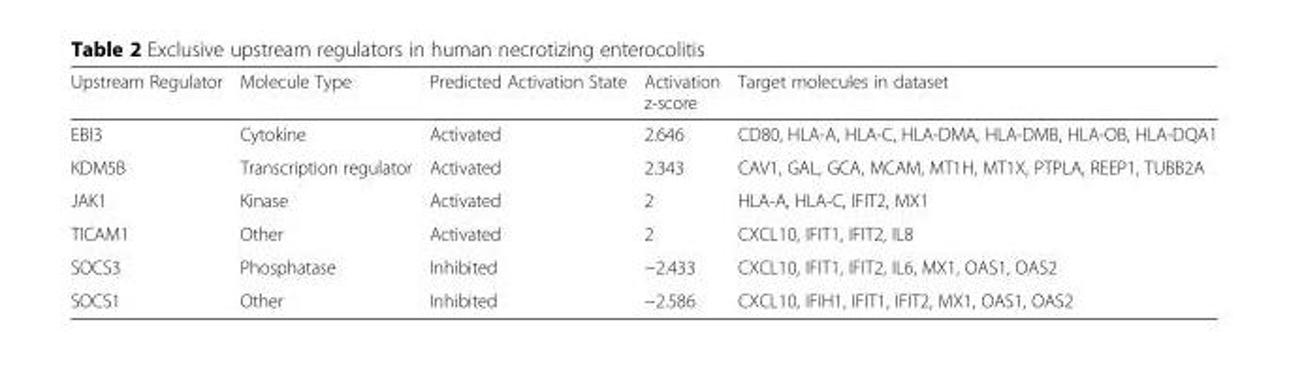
<table><thead><tr><td>Upstream Regulator</td><td>Molecule Type</td><td>Predicted Activation State</td><td>Activation z-score</td><td>Target molecules in dataset</td></tr></thead><tbody><tr><td>EBI3</td><td>Cytokine</td><td>Activated</td><td>2.646</td><td>CD80, HLA-A, HLA-C, HLA-DMA, HLA-DMB, HLA-OB, HLA-DQA1</td></tr><tr><td>KDM5B</td><td>Transcription regulator</td><td>Activated</td><td>2.343</td><td>CAV1, GAL, GCA, MCAM, MT1H, MT1X, PTPLA, REEP1, TUBB2A</td></tr><tr><td>JAK1</td><td>Kinase</td><td>Activated</td><td>2</td><td>HLA-A, HLA-C, IFIT2, MX1</td></tr><tr><td>TICAM1</td><td>Other</td><td>Activated</td><td>2</td><td>CXCL10, IFIT1, IFIT2, IL8</td></tr><tr><td>SOCS3</td><td>Phosphatase</td><td>Inhibited</td><td>−2.433</td><td>CXCL10, IFIT1, IFIT2, IL6, MX1, OAS1, OAS2</td></tr><tr><td>SOCS1</td><td>Other</td><td>Inhibited</td><td>−2.586</td><td>CXCL10, IFIH1, IFIT1, IFIT2, MX1, OAS1, OAS2</td></tr></tbody></table>